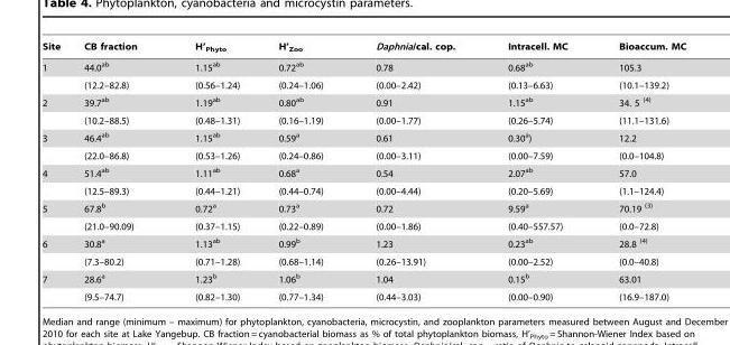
<table><thead><tr><td>Site</td><td>CB fraction</td><td>H’<sub>Phyto</sub></td><td>H’<sub>Zoo</sub></td><td>Daphnia/cal. cop.</td><td>Intracell. MC</td><td>Bioaccum. MC</td></tr></thead><tbody><tr><td rowspan="2">1</td><td>44.0<sup>ab</sup></td><td>1.15<sup>ab</sup></td><td>0.72<sup>ab</sup></td><td>0.78</td><td>0.68<sup>ab</sup></td><td>105.3</td></tr><tr><td>(12.2–82.8)</td><td>(0.56–1.24)</td><td>(0.24–1.06)</td><td>(0.00–2.42)</td><td>(0.13–6.63)</td><td>(10.1–139.2)</td></tr><tr><td rowspan="2">2</td><td>39.7<sup>ab</sup></td><td>1.19<sup>ab</sup></td><td>0.80<sup>ab</sup></td><td>0.91</td><td>1.15<sup>ab</sup></td><td>34. 5 <sup>(4)</sup></td></tr><tr><td>(10.2–88.5)</td><td>(0.48–1.31)</td><td>(0.16–1.19)</td><td>(0.00–1.77)</td><td>(0.26–5.74)</td><td>(11.1–131.6)</td></tr><tr><td rowspan="2">3</td><td>46.4<sup>ab</sup></td><td>1.15<sup>ab</sup></td><td>0.59<sup>a</sup></td><td>0.61</td><td>0.30<sup>a</sup>)</td><td>12.2</td></tr><tr><td>(22.0–86.8)</td><td>(0.53–1.26)</td><td>(0.24–0.86)</td><td>(0.00–3.11)</td><td>(0.00–7.59)</td><td>(0.0–104.8)</td></tr><tr><td rowspan="2">4</td><td>51.4<sup>ab</sup></td><td>1.11<sup>ab</sup></td><td>0.68<sup>a</sup></td><td>0.54</td><td>2.07<sup>ab</sup></td><td>57.0</td></tr><tr><td>(12.5–89.3)</td><td>(0.44–1.21)</td><td>(0.44–0.74)</td><td>(0.00–4.44)</td><td>(0.20–5.69)</td><td>(1.1–124.4)</td></tr><tr><td rowspan="2">5</td><td>67.8<sup>b</sup></td><td>0.72<sup>a</sup></td><td>0.73<sup>a</sup></td><td>0.72</td><td>9.59<sup>a</sup></td><td>70.19 <sup>(3)</sup></td></tr><tr><td>(21.0–90.09)</td><td>(0.37–1.15)</td><td>(0.22–0.89)</td><td>(0.00–1.86)</td><td>(0.40–557.57)</td><td>(0.0–72.8)</td></tr><tr><td rowspan="2">6</td><td>30.8<sup>a</sup></td><td>1.13<sup>ab</sup></td><td>0.99<sup>b</sup></td><td>1.23</td><td>0.23<sup>ab</sup></td><td>28.8 <sup>(4)</sup></td></tr><tr><td>(7.3–80.2)</td><td>(0.71–1.28)</td><td>(0.68–1.14)</td><td>(0.26–13.91)</td><td>(0.00–2.52)</td><td>(0.0–40.8)</td></tr><tr><td rowspan="2">7</td><td>28.6<sup>a</sup></td><td>1.23<sup>b</sup></td><td>1.06<sup>b</sup></td><td>1.04</td><td>0.15<sup>b</sup></td><td>63.01</td></tr><tr><td>(9.5–74.7)</td><td>(0.82–1.30)</td><td>(0.77–1.34)</td><td>(0.44–3.03)</td><td>(0.00–0.90)</td><td>(16.9–187.0)</td></tr></tbody></table>